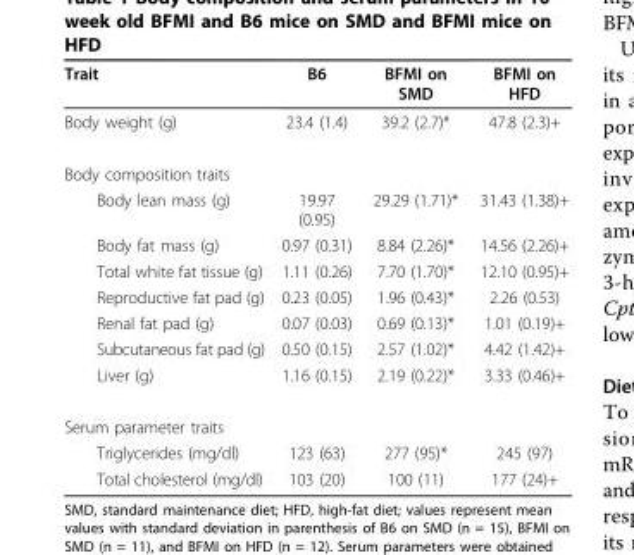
<table><tbody><tr><td>Trait</td><td>B6</td><td>BFMI on SMD</td><td>BFMI on HFD</td></tr><tr><td>Body weight (g)</td><td>23.4 (1.4)</td><td>39.2 (2.7)*</td><td>47.8 (2.3)+</td></tr><tr><td colspan="4">Body composition traits</td></tr><tr><td>Body lean mass (g)</td><td>19.97 (0.95)</td><td>29.29 (1.71)*</td><td>31.43 (1.38)+</td></tr><tr><td>Body fat mass (g)</td><td>0.97 (0.31)</td><td>8.84 (2.26)*</td><td>14.56 (2.26)+</td></tr><tr><td>Total white fat tissue (g)</td><td>1.11 (0.26)</td><td>7.70 (1.70)*</td><td>12.10 (0.95)+</td></tr><tr><td>Reproductive fat pad (g)</td><td>0.23 (0.05)</td><td>1.96 (0.43)*</td><td>2.26 (0.53)</td></tr><tr><td>Renal fat pad (g)</td><td>0.07 (0.03)</td><td>0.69 (0.13)*</td><td>1.01 (0.19)+</td></tr><tr><td>Subcutaneous fat pad (g)</td><td>0.50 (0.15)</td><td>2.57 (1.02)*</td><td>4.42 (1.42)+</td></tr><tr><td>Liver (g)</td><td>1.16 (0.15)</td><td>2.19 (0.22)*</td><td>3.33 (0.46)+</td></tr><tr><td colspan="4">Serum parameter traits</td></tr><tr><td>Triglycerides (mg/dl)</td><td>123 (63)</td><td>277 (95)*</td><td>245 (97)</td></tr><tr><td>Total cholesterol (mg/dl)</td><td>103 (20)</td><td>100 (11)</td><td>177 (24)+</td></tr></tbody></table>